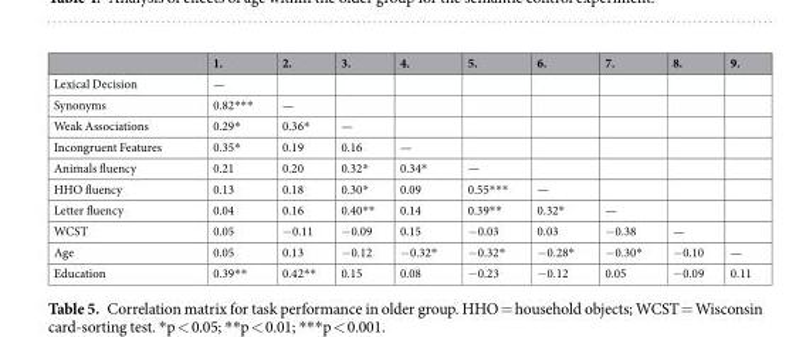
<table><thead><tr><td></td><td>1.</td><td>2.</td><td>3.</td><td>4.</td><td>5.</td><td>6.</td><td>7.</td><td>8.</td><td>9.</td></tr></thead><tbody><tr><td>Lexical Decision</td><td>—</td><td></td><td></td><td></td><td></td><td></td><td></td><td></td><td></td></tr><tr><td>Synonyms</td><td>0.82***</td><td>—</td><td></td><td></td><td></td><td></td><td></td><td></td><td></td></tr><tr><td>Weak Associations</td><td>0.29*</td><td>0.36*</td><td>—</td><td></td><td></td><td></td><td></td><td></td><td></td></tr><tr><td>Incongruent Features</td><td>0.35*</td><td>0.19</td><td>0.16</td><td>—</td><td></td><td></td><td></td><td></td><td></td></tr><tr><td>Animals fluency</td><td>0.21</td><td>0.20</td><td>0.32*</td><td>0.34*</td><td>—</td><td></td><td></td><td></td><td></td></tr><tr><td>HHO fluency</td><td>0.13</td><td>0.18</td><td>0.30*</td><td>0.09</td><td>0.55***</td><td>—</td><td></td><td></td><td></td></tr><tr><td>Letter fluency</td><td>0.04</td><td>0.16</td><td>0.40**</td><td>0.14</td><td>0.39**</td><td>0.32*</td><td>—</td><td></td><td></td></tr><tr><td>WCST</td><td>0.05</td><td>−0.11</td><td>−0.09</td><td>0.15</td><td>−0.03</td><td>0.03</td><td>−0.38</td><td>—</td><td></td></tr><tr><td>Age</td><td>0.05</td><td>0.13</td><td>−0.12</td><td>−0.32*</td><td>−0.32*</td><td>−0.28*</td><td>−0.30*</td><td>−0.10</td><td>—</td></tr><tr><td>Education</td><td>0.39**</td><td>0.42**</td><td>0.15</td><td>0.08</td><td>−0.23</td><td>−0.12</td><td>0.05</td><td>−0.09</td><td>0.11</td></tr></tbody></table>